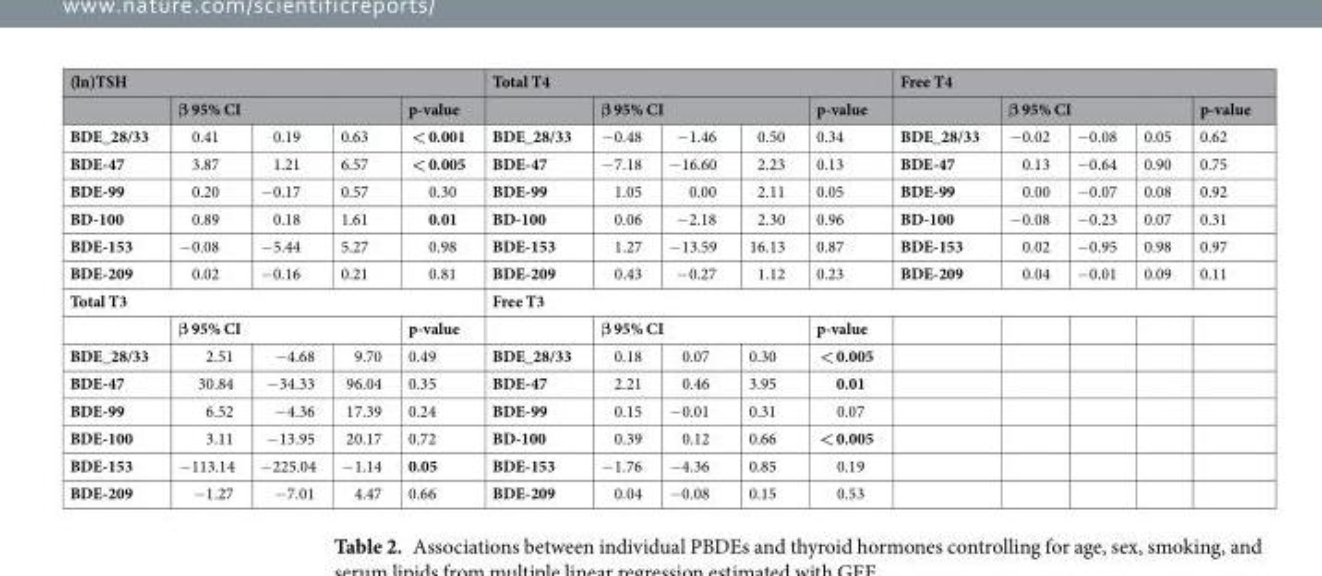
<table><thead><tr><td colspan="5">(ln)TSH</td><td colspan="5">Total T4</td><td colspan="5">Free T4</td></tr><tr><td rowspan="2">BDE_28/33</td><td colspan="3">β 95% CI</td><td rowspan="2">p-value &lt; 0.001</td><td rowspan="2">BDE_28/33</td><td colspan="3">β 95% CI</td><td rowspan="2">p-value 0.34</td><td rowspan="2">BDE_28/33</td><td colspan="3">β 95% CI</td><td rowspan="2">p-value 0.62</td></tr><tr><td>0.41</td><td>0.19</td><td>0.63</td><td>−0.48</td><td>−1.46</td><td>0.50</td><td>−0.02</td><td>−0.08</td><td>0.05</td></tr></thead><tbody><tr><td>BDE-47</td><td>3.87</td><td>1.21</td><td>6.57</td><td>&lt; 0.005</td><td>BDE-47</td><td>−7.18</td><td>−16.60</td><td>2.23</td><td>0.13</td><td>BDE-47</td><td>0.13</td><td>−0.64</td><td>0.90</td><td>0.75</td></tr><tr><td>BDE-99</td><td>0.20</td><td>−0.17</td><td>0.57</td><td>0.30</td><td>BDE-99</td><td>1.05</td><td>0.00</td><td>2.11</td><td>0.05</td><td>BDE-99</td><td>0.00</td><td>−0.07</td><td>0.08</td><td>0.92</td></tr><tr><td>BD-100</td><td>0.89</td><td>0.18</td><td>1.61</td><td>0.01</td><td>BD-100</td><td>0.06</td><td>−2.18</td><td>2.30</td><td>0.96</td><td>BD-100</td><td>−0.08</td><td>−0.23</td><td>0.07</td><td>0.31</td></tr><tr><td>BDE-153</td><td>−0.08</td><td>−5.44</td><td>5.27</td><td>0.98</td><td>BDE-153</td><td>1.27</td><td>−13.59</td><td>16.13</td><td>0.87</td><td>BDE-153</td><td>0.02</td><td>−0.95</td><td>0.98</td><td>0.97</td></tr><tr><td>BDE-209</td><td>0.02</td><td>−0.16</td><td>0.21</td><td>0.81</td><td>BDE-209</td><td>0.43</td><td>−0.27</td><td>1.12</td><td>0.23</td><td>BDE-209</td><td>0.04</td><td>−0.01</td><td>0.09</td><td>0.11</td></tr><tr><td colspan="5">Total T3</td><td colspan="10">Free T3</td></tr><tr><td></td><td colspan="3">β 95% CI</td><td>p-value</td><td></td><td colspan="3">β 95% CI</td><td>p-value</td><td></td><td></td><td></td><td></td><td></td></tr><tr><td>BDE_28/33</td><td>2.51</td><td>−4.68</td><td>9.70</td><td>0.49</td><td>BDE_28/33</td><td>0.18</td><td>0.07</td><td>0.30</td><td>&lt; 0.005</td><td></td><td></td><td></td><td></td><td></td></tr><tr><td>BDE-47</td><td>30.84</td><td>−34.33</td><td>96.04</td><td>0.35</td><td>BDE-47</td><td>2.21</td><td>0.46</td><td>3.95</td><td>0.01</td><td></td><td></td><td></td><td></td><td></td></tr><tr><td>BDE-99</td><td>6.52</td><td>−4.36</td><td>17.39</td><td>0.24</td><td>BDE-99</td><td>0.15</td><td>−0.01</td><td>0.31</td><td>0.07</td><td></td><td></td><td></td><td></td><td></td></tr><tr><td>BDE-100</td><td>3.11</td><td>−13.95</td><td>20.17</td><td>0.72</td><td>BD-100</td><td>0.39</td><td>0.12</td><td>0.66</td><td>&lt; 0.005</td><td></td><td></td><td></td><td></td><td></td></tr><tr><td>BDE-153</td><td>−113.14</td><td>−225.04</td><td>−1.14</td><td>0.05</td><td>BDE-153</td><td>−1.76</td><td>−4.36</td><td>0.85</td><td>0.19</td><td></td><td></td><td></td><td></td><td></td></tr><tr><td>BDE-209</td><td>−1.27</td><td>−7.01</td><td>4.47</td><td>0.66</td><td>BDE-209</td><td>0.04</td><td>−0.08</td><td>0.15</td><td>0.53</td><td></td><td></td><td></td><td></td><td></td></tr></tbody></table>